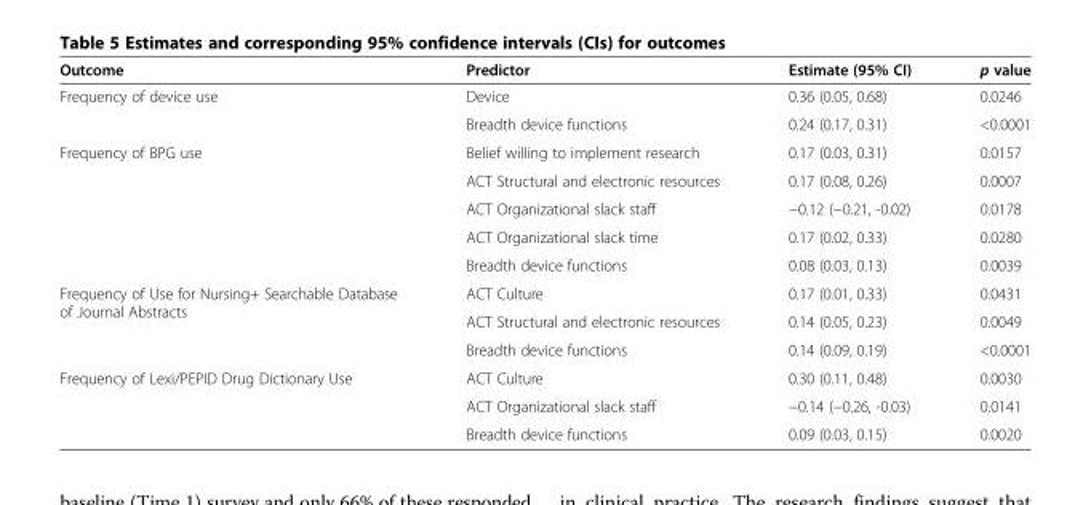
<table><thead><tr><td>Outcome</td><td>Predictor</td><td>Estimate (95% CI)</td><td>p value</td></tr></thead><tbody><tr><td rowspan="2">Frequency of device use</td><td>Device</td><td>0.36 (0.05, 0.68)</td><td>0.0246</td></tr><tr><td>Breadth device functions</td><td>0.24 (0.17, 0.31)</td><td>&lt;0.0001</td></tr><tr><td rowspan="5">Frequency of BPG use</td><td>Belief willing to implement research</td><td>0.17 (0.03, 0.31)</td><td>0.0157</td></tr><tr><td>ACT Structural and electronic resources</td><td>0.17 (0.08, 0.26)</td><td>0.0007</td></tr><tr><td>ACT Organizational slack staff</td><td>−0.12 (−0.21, -0.02)</td><td>0.0178</td></tr><tr><td>ACT Organizational slack time</td><td>0.17 (0.02, 0.33)</td><td>0.0280</td></tr><tr><td>Breadth device functions</td><td>0.08 (0.03, 0.13)</td><td>0.0039</td></tr><tr><td rowspan="3">Frequency of Use for Nursing+ Searchable Database of Journal Abstracts</td><td>ACT Culture</td><td>0.17 (0.01, 0.33)</td><td>0.0431</td></tr><tr><td>ACT Structural and electronic resources</td><td>0.14 (0.05, 0.23)</td><td>0.0049</td></tr><tr><td>Breadth device functions</td><td>0.14 (0.09, 0.19)</td><td>&lt;0.0001</td></tr><tr><td rowspan="3">Frequency of Lexi/PEPID Drug Dictionary Use</td><td>ACT Culture</td><td>0.30 (0.11, 0.48)</td><td>0.0030</td></tr><tr><td>ACT Organizational slack staff</td><td>−0.14 (−0.26, -0.03)</td><td>0.0141</td></tr><tr><td>Breadth device functions</td><td>0.09 (0.03, 0.15)</td><td>0.0020</td></tr></tbody></table>